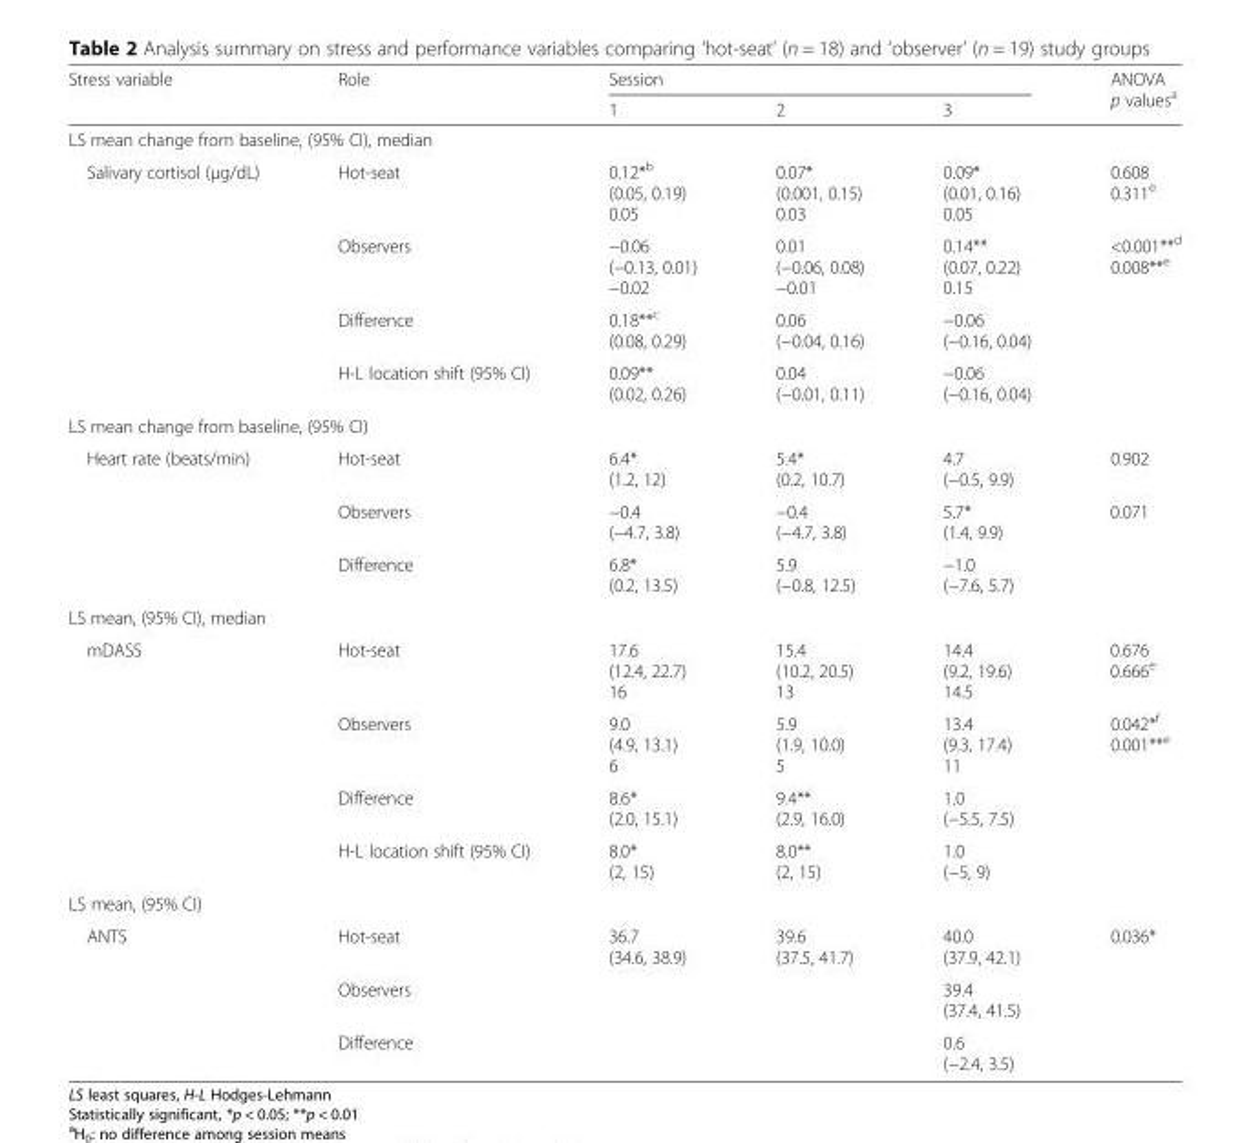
<table><thead><tr><td rowspan="2">Stress variable</td><td rowspan="2">Role</td><td colspan="3">Session</td><td rowspan="2">ANOVA p values<sup>a</sup></td></tr><tr><td>1</td><td>2</td><td>3</td></tr></thead><tbody><tr><td colspan="6">LS mean change from baseline, (95% CI), median</td></tr><tr><td rowspan="4">Salivary cortisol (μg/dL)</td><td>Hot-seat</td><td>0.12*<sup>b</sup> (0.05, 0.19) 0.05</td><td>0.07* (0.001, 0.15) 0.03</td><td>0.09* (0.01, 0.16) 0.05</td><td>0.608 0.311<sup>e</sup></td></tr><tr><td>Observers</td><td>−0.06 (−0.13, 0.01) −0.02</td><td>0.01 (−0.06, 0.08) −0.01</td><td>0.14** (0.07, 0.22) 0.15</td><td>&lt;0.001**<sup>d</sup> 0.008**<sup>e</sup></td></tr><tr><td>Difference</td><td>0.18**<sup>c</sup> (0.08, 0.29)</td><td>0.06 (−0.04, 0.16)</td><td>−0.06 (−0.16, 0.04)</td><td></td></tr><tr><td>H-L location shift (95% CI)</td><td>0.09** (0.02, 0.26)</td><td>0.04 (−0.01, 0.11)</td><td>−0.06 (−0.16, 0.04)</td><td></td></tr><tr><td colspan="6">LS mean change from baseline, (95% CI)</td></tr><tr><td rowspan="3">Heart rate (beats/min)</td><td>Hot-seat</td><td>6.4* (1.2, 12)</td><td>5.4* (0.2, 10.7)</td><td>4.7 (−0.5, 9.9)</td><td>0.902</td></tr><tr><td>Observers</td><td>−0.4 (−4.7, 3.8)</td><td>−0.4 (−4.7, 3.8)</td><td>5.7* (1.4, 9.9)</td><td>0.071</td></tr><tr><td>Difference</td><td>6.8* (0.2, 13.5)</td><td>5.9 (−0.8, 12.5)</td><td>−1.0 (−7.6, 5.7)</td><td></td></tr><tr><td colspan="6">LS mean, (95% CI), median</td></tr><tr><td rowspan="4">mDASS</td><td>Hot-seat</td><td>17.6 (12.4, 22.7) 16</td><td>15.4 (10.2, 20.5) 13</td><td>14.4 (9.2, 19.6) 14.5</td><td>0.676 0.666<sup>e</sup></td></tr><tr><td>Observers</td><td>9.0 (4.9, 13.1) 6</td><td>5.9 (1.9, 10.0) 5</td><td>13.4 (9.3, 17.4) 11</td><td>0.042*<sup>f</sup> 0.001**<sup>e</sup></td></tr><tr><td>Difference</td><td>8.6* (2.0, 15.1)</td><td>9.4** (2.9, 16.0)</td><td>1.0 (−5.5, 7.5)</td><td></td></tr><tr><td>H-L location shift (95% CI)</td><td>8.0* (2, 15)</td><td>8.0** (2, 15)</td><td>1.0 (−5, 9)</td><td></td></tr><tr><td colspan="6">LS mean, (95% CI)</td></tr><tr><td rowspan="3">ANTS</td><td>Hot-seat</td><td>36.7 (34.6, 38.9)</td><td>39.6 (37.5, 41.7)</td><td>40.0 (37.9, 42.1)</td><td>0.036*</td></tr><tr><td>Observers</td><td></td><td></td><td>39.4 (37.4, 41.5)</td><td></td></tr><tr><td>Difference</td><td></td><td></td><td>0.6 (−2.4, 3.5)</td><td></td></tr></tbody></table>